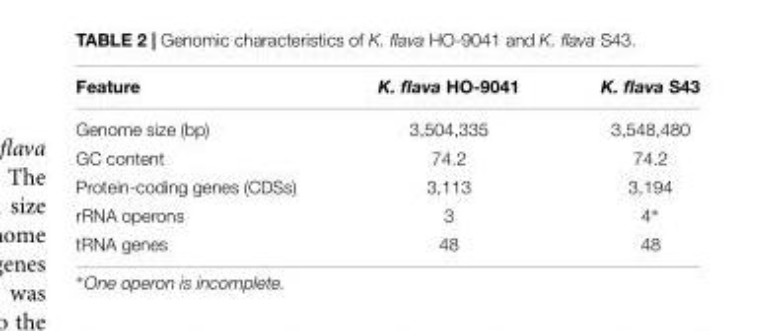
<table><thead><tr><td>Feature</td><td>K. flava HO-9041</td><td>K. flava S43</td></tr></thead><tbody><tr><td>Genome size (bp)</td><td>3,504,335</td><td>3,548,480</td></tr><tr><td>GC content</td><td>74.2</td><td>74.2</td></tr><tr><td>Protein-coding genes (CDSs)</td><td>3,113</td><td>3,194</td></tr><tr><td>rRNA operons</td><td>3</td><td>4∗</td></tr><tr><td>tRNA genes</td><td>48</td><td>48</td></tr></tbody></table>